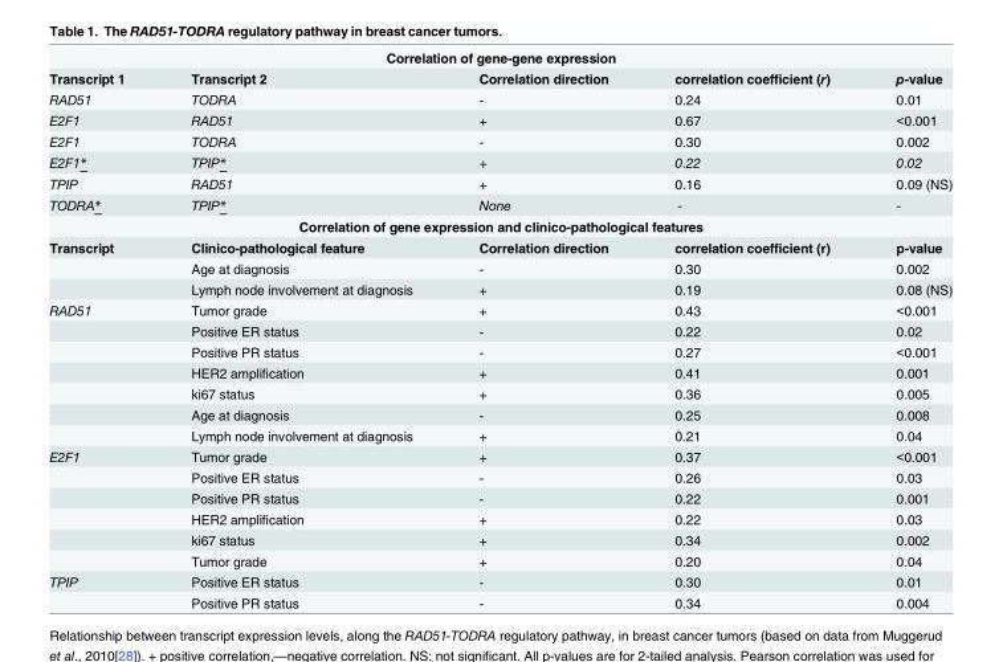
<table><tbody><tr><td colspan="5">Correlation of gene-gene expression</td></tr><tr><td>Transcript 1</td><td>Transcript 2</td><td>Correlation direction</td><td>correlation coefficient (r)</td><td>p-value</td></tr><tr><td>RAD51</td><td>TODRA</td><td>-</td><td>0.24</td><td>0.01</td></tr><tr><td>E2F1</td><td>RAD51</td><td>+</td><td>0.67</td><td>&lt;0.001</td></tr><tr><td>E2F1</td><td>TODRA</td><td>-</td><td>0.30</td><td>0.002</td></tr><tr><td>E2F1*</td><td>TPIP*</td><td>+</td><td>0.22</td><td>0.02</td></tr><tr><td>TPIP</td><td>RAD51</td><td>+</td><td>0.16</td><td>0.09 (NS)</td></tr><tr><td>TODRA*</td><td>TPIP*</td><td>None</td><td>-</td><td>-</td></tr><tr><td colspan="5">Correlation of gene expression and clinico-pathological features</td></tr><tr><td rowspan="3">Transcript</td><td>Clinico-pathological feature</td><td>Correlation direction</td><td>correlation coefficient (r)</td><td>p-value</td></tr><tr><td>Age at diagnosis</td><td>-</td><td>0.30</td><td>0.002</td></tr><tr><td>Lymph node involvement at diagnosis</td><td>+</td><td>0.19</td><td>0.08 (NS)</td></tr><tr><td rowspan="7">RAD51</td><td>Tumor grade</td><td>+</td><td>0.43</td><td>&lt;0.001</td></tr><tr><td>Positive ER status</td><td>-</td><td>0.22</td><td>0.02</td></tr><tr><td>Positive PR status</td><td>-</td><td>0.27</td><td>&lt;0.001</td></tr><tr><td>HER2 amplification</td><td>+</td><td>0.41</td><td>0.001</td></tr><tr><td>ki67 status</td><td>+</td><td>0.36</td><td>0.005</td></tr><tr><td>Age at diagnosis</td><td>-</td><td>0.25</td><td>0.008</td></tr><tr><td>Lymph node involvement at diagnosis</td><td>+</td><td>0.21</td><td>0.04</td></tr><tr><td rowspan="6">E2F1</td><td>Tumor grade</td><td>+</td><td>0.37</td><td>&lt;0.001</td></tr><tr><td>Positive ER status</td><td>-</td><td>0.26</td><td>0.03</td></tr><tr><td>Positive PR status</td><td>-</td><td>0.22</td><td>0.001</td></tr><tr><td>HER2 amplification</td><td>+</td><td>0.22</td><td>0.03</td></tr><tr><td>ki67 status</td><td>+</td><td>0.34</td><td>0.002</td></tr><tr><td>Tumor grade</td><td>+</td><td>0.20</td><td>0.04</td></tr><tr><td rowspan="2">TPIP</td><td>Positive ER status</td><td>-</td><td>0.30</td><td>0.01</td></tr><tr><td>Positive PR status</td><td>-</td><td>0.34</td><td>0.004</td></tr></tbody></table>